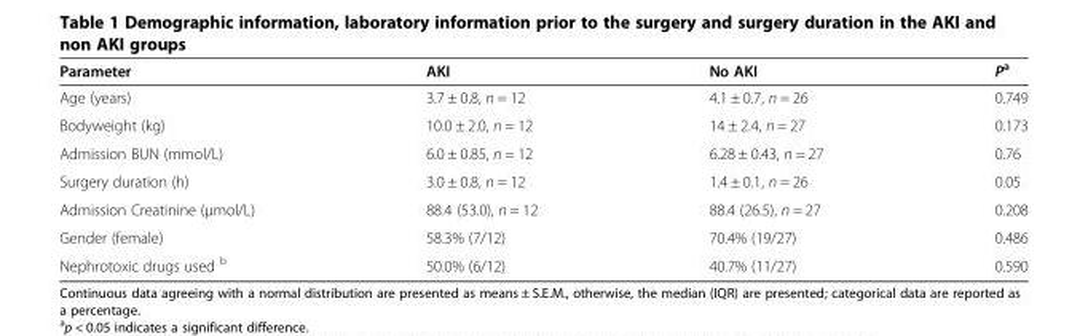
<table><thead><tr><td>Parameter</td><td>AKI</td><td>No AKI</td><td>P<sup>a</sup></td></tr></thead><tbody><tr><td>Age (years)</td><td>3.7 ± 0.8, n = 12</td><td>4.1 ± 0.7, n = 26</td><td>0.749</td></tr><tr><td>Bodyweight (kg)</td><td>10.0 ± 2.0, n = 12</td><td>14 ± 2.4, n = 27</td><td>0.173</td></tr><tr><td>Admission BUN (mmol/L)</td><td>6.0 ± 0.85, n = 12</td><td>6.28 ± 0.43, n = 27</td><td>0.76</td></tr><tr><td>Surgery duration (h)</td><td>3.0 ± 0.8, n = 12</td><td>1.4 ± 0.1, n = 26</td><td>0.05</td></tr><tr><td>Admission Creatinine (μmol/L)</td><td>88.4 (53.0), n = 12</td><td>88.4 (26.5), n = 27</td><td>0.208</td></tr><tr><td>Gender (female)</td><td>58.3% (7/12)</td><td>70.4% (19/27)</td><td>0.486</td></tr><tr><td>Nephrotoxic drugs used <sup>b</sup></td><td>50.0% (6/12)</td><td>40.7% (11/27)</td><td>0.590</td></tr></tbody></table>